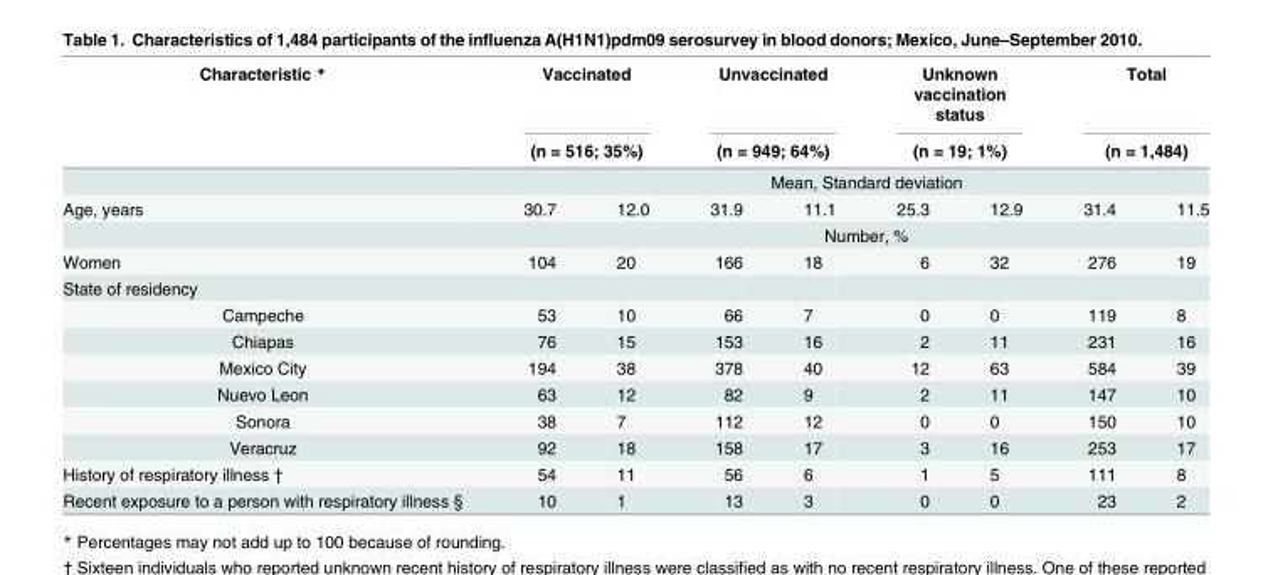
<table><thead><tr><td rowspan="4">Characteristic * Age, years</td><td rowspan="2" colspan="2">Vaccinated (n = 516; 35%)</td><td rowspan="2" colspan="2">Unvaccinated (n = 949; 64%)</td><td rowspan="2" colspan="2">Unknown vaccination status (n = 19; 1%)</td><td rowspan="2" colspan="2">Total (n = 1,484)</td></tr><tr></tr><tr><td colspan="8">Mean, Standard deviation</td></tr><tr><td>30.7</td><td>12.0</td><td>31.9</td><td>11.1</td><td>25.3</td><td>12.9</td><td>31.4</td><td>11.5</td></tr></thead><tbody><tr><td></td><td colspan="8">Number, %</td></tr><tr><td>Women</td><td>104</td><td>20</td><td>166</td><td>18</td><td>6</td><td>32</td><td>276</td><td>19</td></tr><tr><td colspan="9">State of residency</td></tr><tr><td>Campeche</td><td>53</td><td>10</td><td>66</td><td>7</td><td>0</td><td>0</td><td>119</td><td>8</td></tr><tr><td>Chiapas</td><td>76</td><td>15</td><td>153</td><td>16</td><td>2</td><td>11</td><td>231</td><td>16</td></tr><tr><td>Mexico City</td><td>194</td><td>38</td><td>378</td><td>40</td><td>12</td><td>63</td><td>584</td><td>39</td></tr><tr><td>Nuevo Leon</td><td>63</td><td>12</td><td>82</td><td>9</td><td>2</td><td>11</td><td>147</td><td>10</td></tr><tr><td>Sonora</td><td>38</td><td>7</td><td>112</td><td>12</td><td>0</td><td>0</td><td>150</td><td>10</td></tr><tr><td>Veracruz</td><td>92</td><td>18</td><td>158</td><td>17</td><td>3</td><td>16</td><td>253</td><td>17</td></tr><tr><td>History of respiratory illness †</td><td>54</td><td>11</td><td>56</td><td>6</td><td>1</td><td>5</td><td>111</td><td>8</td></tr><tr><td>Recent exposure to a person with respiratory illness §</td><td>10</td><td>1</td><td>13</td><td>3</td><td>0</td><td>0</td><td>23</td><td>2</td></tr></tbody></table>